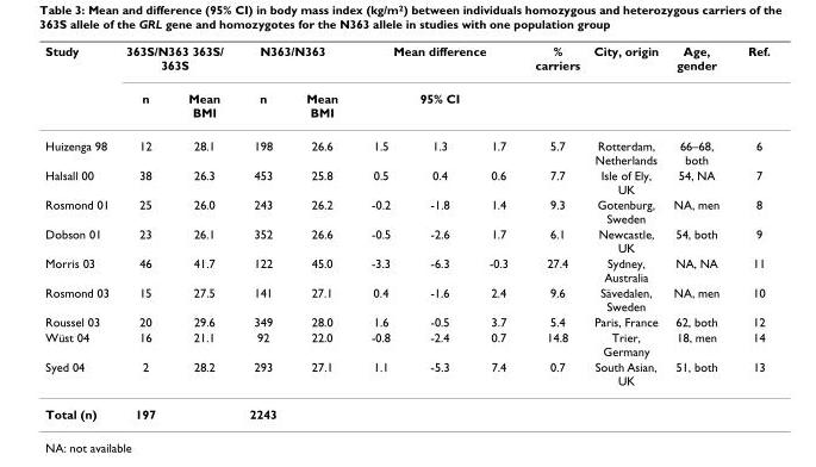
<table><thead><tr><td rowspan="3">Study Huizenga 98</td><td colspan="2">363S/N363 363S/ 363S</td><td colspan="2">N363/N363</td><td rowspan="2" colspan="3">Mean difference 95% CI</td><td rowspan="3">% carriers 5.7</td><td rowspan="3">City, origin Rotterdam, Netherlands</td><td rowspan="3">Age, gender 66–68, both</td><td rowspan="3">Ref. 6</td></tr><tr><td rowspan="2">n 12</td><td rowspan="2">Mean BMI 28.1</td><td rowspan="2">n 198</td><td rowspan="2">Mean BMI 26.6</td></tr><tr><td>1.5</td><td>1.3</td><td>1.7</td></tr></thead><tbody><tr><td>Halsall 00</td><td>38</td><td>26.3</td><td>453</td><td>25.8</td><td>0.5</td><td>0.4</td><td>0.6</td><td>7.7</td><td>Isle of Ely, UK</td><td>54, NA</td><td>7</td></tr><tr><td>Rosmond 01</td><td>25</td><td>26.0</td><td>243</td><td>26.2</td><td>-0.2</td><td>-1.8</td><td>1.4</td><td>9.3</td><td>Gotenburg, Sweden</td><td>NA, men</td><td>8</td></tr><tr><td>Dobson 01</td><td>23</td><td>26.1</td><td>352</td><td>26.6</td><td>-0.5</td><td>-2.6</td><td>1.7</td><td>6.1</td><td>Newcastle, UK</td><td>54, both</td><td>9</td></tr><tr><td>Morris 03</td><td>46</td><td>41.7</td><td>122</td><td>45.0</td><td>-3.3</td><td>-6.3</td><td>-0.3</td><td>27.4</td><td>Sydney, Australia</td><td>NA, NA</td><td>11</td></tr><tr><td>Rosmond 03</td><td>15</td><td>27.5</td><td>141</td><td>27.1</td><td>0.4</td><td>-1.6</td><td>2.4</td><td>9.6</td><td>Sävedalen, Sweden</td><td>NA, men</td><td>10</td></tr><tr><td>Roussel 03</td><td>20</td><td>29.6</td><td>349</td><td>28.0</td><td>1.6</td><td>-0.5</td><td>3.7</td><td>5.4</td><td>Paris, France</td><td>62, both</td><td>12</td></tr><tr><td>Wüst 04</td><td>16</td><td>21.1</td><td>92</td><td>22.0</td><td>-0.8</td><td>-2.4</td><td>0.7</td><td>14.8</td><td>Trier, Germany</td><td>18, men</td><td>14</td></tr><tr><td>Syed 04</td><td>2</td><td>28.2</td><td>293</td><td>27.1</td><td>1.1</td><td>-5.3</td><td>7.4</td><td>0.7</td><td>South Asian, UK</td><td>51, both</td><td>13</td></tr><tr><td>Total (n)</td><td>197</td><td></td><td>2243</td><td></td><td></td><td></td><td></td><td></td><td></td><td></td><td></td></tr></tbody></table>